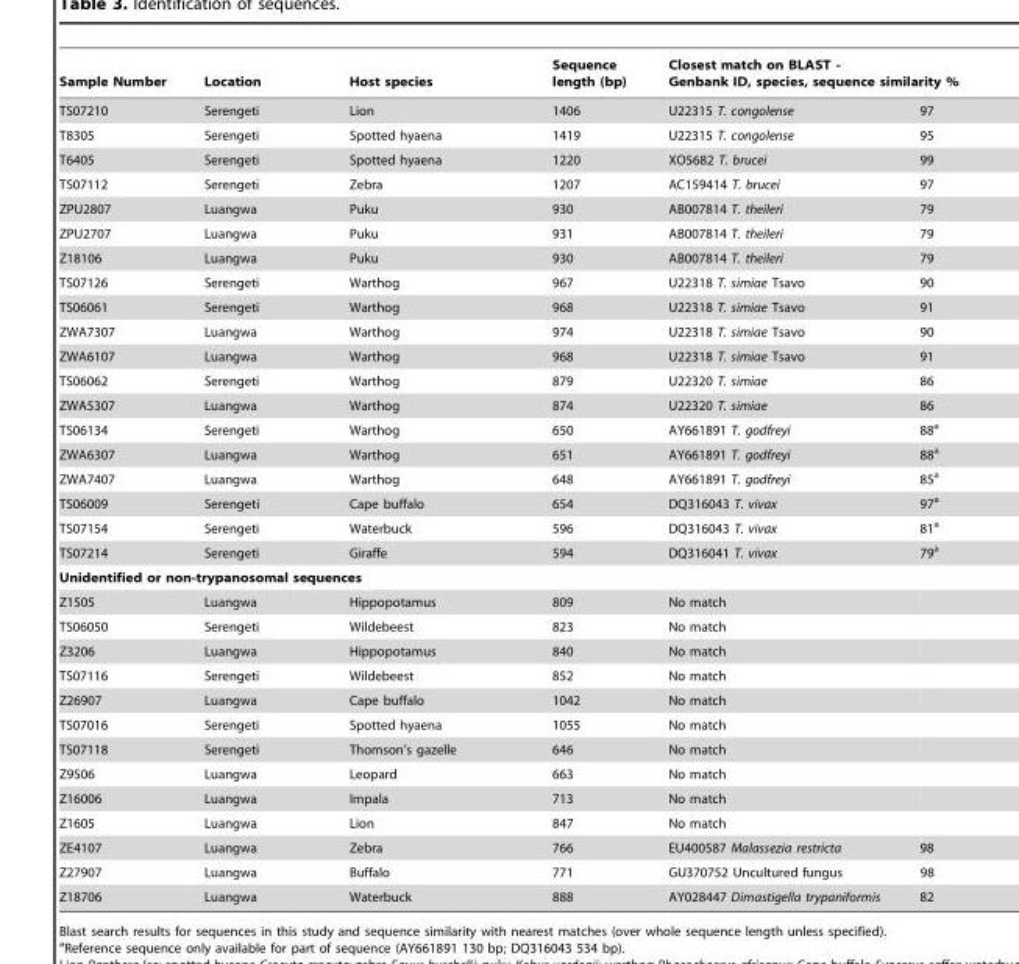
<table><thead><tr><td rowspan="2">Sample Number TS07210</td><td rowspan="2">Location Serengeti</td><td rowspan="2">Host species Lion</td><td rowspan="2">Sequence length (bp) 1406</td><td colspan="2">Closest match on BLAST - Genbank ID, species, sequence similarity %</td></tr><tr><td>U22315 T. congolense</td><td>97</td></tr></thead><tbody><tr><td>T8305</td><td>Serengeti</td><td>Spotted hyaena</td><td>1419</td><td>U22315 T. congolense</td><td>95</td></tr><tr><td>T6405</td><td>Serengeti</td><td>Spotted hyaena</td><td>1220</td><td>XO5682 T. brucei</td><td>99</td></tr><tr><td>TS07112</td><td>Serengeti</td><td>Zebra</td><td>1207</td><td>AC159414 T. brucei</td><td>97</td></tr><tr><td>ZPU2807</td><td>Luangwa</td><td>Puku</td><td>930</td><td>AB007814 T. theileri</td><td>79</td></tr><tr><td>ZPU2707</td><td>Luangwa</td><td>Puku</td><td>931</td><td>AB007814 T. theileri</td><td>79</td></tr><tr><td>Z18106</td><td>Luangwa</td><td>Puku</td><td>930</td><td>AB007814 T. theileri</td><td>79</td></tr><tr><td>TS07126</td><td>Serengeti</td><td>Warthog</td><td>967</td><td>U22318 T. simiae Tsavo</td><td>90</td></tr><tr><td>TS06061</td><td>Serengeti</td><td>Warthog</td><td>968</td><td>U22318 T. simiae Tsavo</td><td>91</td></tr><tr><td>ZWA7307</td><td>Luangwa</td><td>Warthog</td><td>974</td><td>U22318 T. simiae Tsavo</td><td>90</td></tr><tr><td>ZWA6107</td><td>Luangwa</td><td>Warthog</td><td>968</td><td>U22318 T. simiae Tsavo</td><td>91</td></tr><tr><td>TS06062</td><td>Serengeti</td><td>Warthog</td><td>879</td><td>U22320 T. simiae</td><td>86</td></tr><tr><td>ZWA5307</td><td>Luangwa</td><td>Warthog</td><td>874</td><td>U22320 T. simiae</td><td>86</td></tr><tr><td>TS06134</td><td>Serengeti</td><td>Warthog</td><td>650</td><td>AY661891 T. godfreyi</td><td>88<sup>a</sup></td></tr><tr><td>ZWA6307</td><td>Luangwa</td><td>Warthog</td><td>651</td><td>AY661891 T. godfreyi</td><td>88<sup>a</sup></td></tr><tr><td>ZWA7407</td><td>Luangwa</td><td>Warthog</td><td>648</td><td>AY661891 T. godfreyi</td><td>85<sup>a</sup></td></tr><tr><td>TS06009</td><td>Serengeti</td><td>Cape buffalo</td><td>654</td><td>DQ316043 T. vivax</td><td>97<sup>a</sup></td></tr><tr><td>TS07154</td><td>Serengeti</td><td>Waterbuck</td><td>596</td><td>DQ316043 T. vivax</td><td>81<sup>a</sup></td></tr><tr><td>TS07214</td><td>Serengeti</td><td>Giraffe</td><td>594</td><td>DQ316041 T. vivax</td><td>79<sup>a</sup></td></tr><tr><td colspan="6">Unidentified or non-trypanosomal sequences</td></tr><tr><td>Z1505</td><td>Luangwa</td><td>Hippopotamus</td><td>809</td><td>No match</td><td></td></tr><tr><td>TS06050</td><td>Serengeti</td><td>Wildebeest</td><td>823</td><td>No match</td><td></td></tr><tr><td>Z3206</td><td>Luangwa</td><td>Hippopotamus</td><td>840</td><td>No match</td><td></td></tr><tr><td>TS07116</td><td>Serengeti</td><td>Wildebeest</td><td>852</td><td>No match</td><td></td></tr><tr><td>Z26907</td><td>Luangwa</td><td>Cape buffalo</td><td>1042</td><td>No match</td><td></td></tr><tr><td>TS07016</td><td>Serengeti</td><td>Spotted hyaena</td><td>1055</td><td>No match</td><td></td></tr><tr><td>TS07118</td><td>Serengeti</td><td>Thomson’s gazelle</td><td>646</td><td>No match</td><td></td></tr><tr><td>Z9506</td><td>Luangwa</td><td>Leopard</td><td>663</td><td>No match</td><td></td></tr><tr><td>Z16006</td><td>Luangwa</td><td>Impala</td><td>713</td><td>No match</td><td></td></tr><tr><td>Z1605</td><td>Luangwa</td><td>Lion</td><td>847</td><td>No match</td><td></td></tr><tr><td>ZE4107</td><td>Luangwa</td><td>Zebra</td><td>766</td><td>EU400587 Malassezia restricta</td><td>98</td></tr><tr><td>Z27907</td><td>Luangwa</td><td>Buffalo</td><td>771</td><td>GU370752 Uncultured fungus</td><td>98</td></tr><tr><td>Z18706</td><td>Luangwa</td><td>Waterbuck</td><td>888</td><td>AY028447 Dimastigella trypaniformis</td><td>82</td></tr></tbody></table>